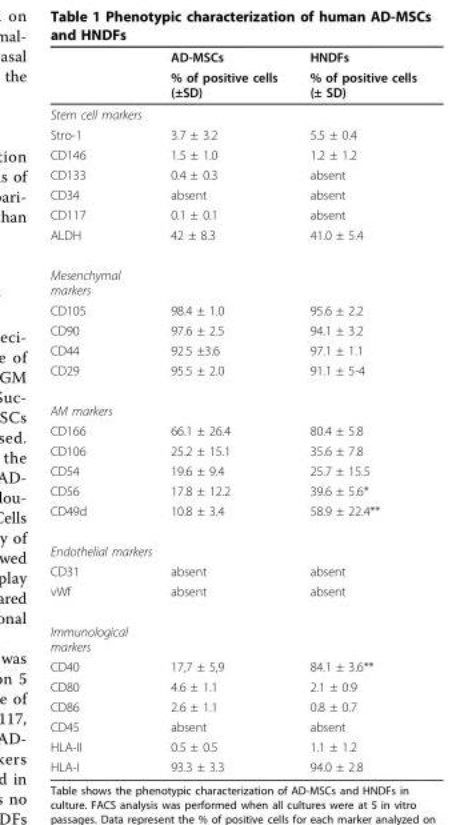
<table><thead><tr><td rowspan="2"></td><td rowspan="2">AD-MSCs % of positive cells (±SD)</td><td rowspan="2">HNDFs % of positive cells (± SD)</td></tr><tr></tr></thead><tbody><tr><td colspan="3">Stem cell markers</td></tr><tr><td>Stro-1</td><td>3.7 ± 3.2</td><td>5.5 ± 0.4</td></tr><tr><td>CD146</td><td>1.5 ± 1.0</td><td>1.2 ± 1.2</td></tr><tr><td>CD133</td><td>0.4 ± 0.3</td><td>absent</td></tr><tr><td>CD34</td><td>absent</td><td>absent</td></tr><tr><td>CD117</td><td>0.1 ± 0.1</td><td>absent</td></tr><tr><td>ALDH</td><td>42 ± 8.3</td><td>41.0 ± 5.4</td></tr><tr><td colspan="3">Mesenchymal markers</td></tr><tr><td>CD105</td><td>98.4 ± 1.0</td><td>95.6 ± 2.2</td></tr><tr><td>CD90</td><td>97.6 ± 2.5</td><td>94.1 ± 3.2</td></tr><tr><td>CD44</td><td>92.5 ±3.6</td><td>97.1 ± 1.1</td></tr><tr><td>CD29</td><td>95.5 ± 2.0</td><td>91.1 ± 5-4</td></tr><tr><td colspan="3">AM markers</td></tr><tr><td>CD166</td><td>66.1 ± 26.4</td><td>80.4 ± 5.8</td></tr><tr><td>CD106</td><td>25.2 ± 15.1</td><td>35.6 ± 7.8</td></tr><tr><td>CD54</td><td>19.6 ± 9.4</td><td>25.7 ± 15.5</td></tr><tr><td>CD56</td><td>17.8 ± 12.2</td><td>39.6 ± 5.6*</td></tr><tr><td>CD49d</td><td>10.8 ± 3.4</td><td>58.9 ± 22.4**</td></tr><tr><td colspan="3">Endothelial markers</td></tr><tr><td>CD31</td><td>absent</td><td>absent</td></tr><tr><td>vWf</td><td>absent</td><td>absent</td></tr><tr><td colspan="3">Immunological markers</td></tr><tr><td>CD40</td><td>17,7 ± 5,9</td><td>84.1 ± 3.6**</td></tr><tr><td>CD80</td><td>4.6 ± 1.1</td><td>2.1 ± 0.9</td></tr><tr><td>CD86</td><td>2.6 ± 1.1</td><td>0.8 ± 0.7</td></tr><tr><td>CD45</td><td>absent</td><td>absent</td></tr><tr><td>HLA-II</td><td>0.5 ± 0.5</td><td>1.1 ± 1.2</td></tr><tr><td>HLA-I</td><td>93.3 ± 3.3</td><td>94.0 ± 2.8</td></tr></tbody></table>